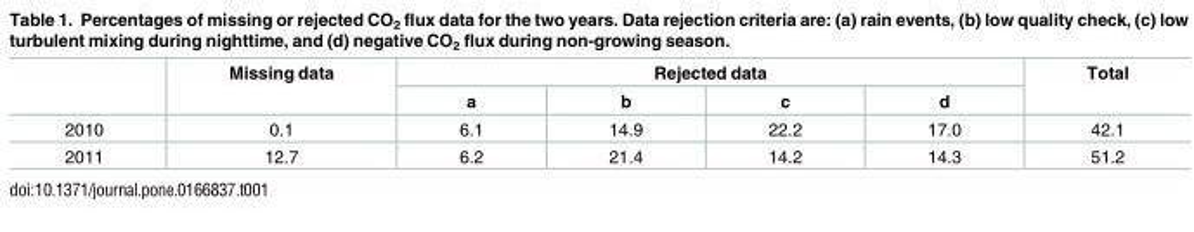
<table><thead><tr><td rowspan="2"></td><td rowspan="2">Missing data</td><td colspan="4">Rejected data</td><td rowspan="2">Total</td></tr><tr><td>a</td><td>b</td><td>c</td><td>d</td></tr></thead><tbody><tr><td>2010</td><td>0.1</td><td>6.1</td><td>14.9</td><td>22.2</td><td>17.0</td><td>42.1</td></tr><tr><td>2011</td><td>12.7</td><td>6.2</td><td>21.4</td><td>14.2</td><td>14.3</td><td>51.2</td></tr></tbody></table>